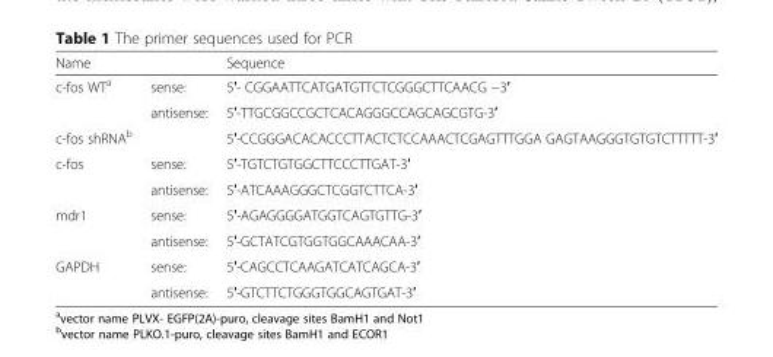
<table><thead><tr><td>Name</td><td></td><td>Sequence</td></tr></thead><tbody><tr><td rowspan="2">c-fos WT<sup>a</sup></td><td>sense:</td><td>5′- CGGAATTCATGATGTTCTCGGGCTTCAACG −3′</td></tr><tr><td>antisense:</td><td>5′-TTGCGGCCGCTCACAGGGCCAGCAGCGTG-3′</td></tr><tr><td>c-fos shRNA<sup>b</sup></td><td></td><td>5′-CCGGGACACACCCTTACTCTCCAAACTCGAGTTTGGA GAGTAAGGGTGTGTCTTTTT-3′</td></tr><tr><td rowspan="2">c-fos</td><td>sense:</td><td>5′-TGTCTGTGGCTTCCCTTGAT-3′</td></tr><tr><td>antisense:</td><td>5′-ATCAAAGGGCTCGGTCTTCA-3′</td></tr><tr><td rowspan="2">mdr1</td><td>sense:</td><td>5′-AGAGGGGATGGTCAGTGTTG-3′</td></tr><tr><td>antisense:</td><td>5′-GCTATCGTGGTGGCAAACAA-3′</td></tr><tr><td rowspan="2">GAPDH</td><td>sense:</td><td>5′-CAGCCTCAAGATCATCAGCA-3′</td></tr><tr><td>antisense:</td><td>5′-GTCTTCTGGGTGGCAGTGAT-3′</td></tr></tbody></table>